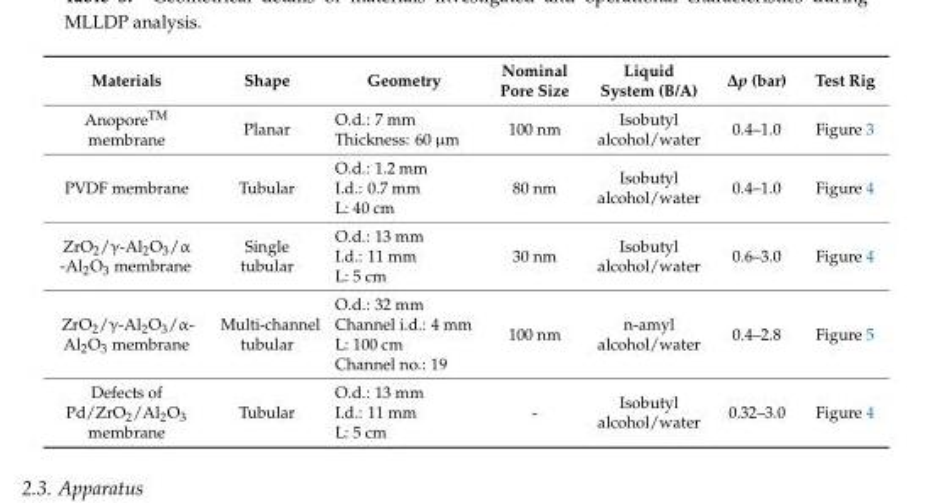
<table><thead><tr><td>Materials</td><td>Shape</td><td>Geometry</td><td>Nominal Pore Size</td><td>Liquid System (B/A)</td><td>∆p (bar)</td><td>Test Rig</td></tr></thead><tbody><tr><td>Anopore<sup>TM</sup> membrane</td><td>Planar</td><td>O.d.: 7 mm Thickness: 60 µm</td><td>100 nm</td><td>Isobutyl alcohol/water</td><td>0.4–1.0</td><td>Figure 3</td></tr><tr><td>PVDF membrane</td><td>Tubular</td><td>O.d.: 1.2 mm I.d.: 0.7 mm L: 40 cm</td><td>80 nm</td><td>Isobutyl alcohol/water</td><td>0.4–1.0</td><td>Figure 4</td></tr><tr><td>ZrO<sub>2</sub>/γ-Al<sub>2</sub>O<sub>3</sub>/α -Al<sub>2</sub>O<sub>3</sub> membrane</td><td>Single tubular</td><td>O.d.: 13 mm I.d.: 11 mm L: 5 cm</td><td>30 nm</td><td>Isobutyl alcohol/water</td><td>0.6–3.0</td><td>Figure 4</td></tr><tr><td>ZrO<sub>2</sub>/γ-Al<sub>2</sub>O<sub>3</sub>/α- Al<sub>2</sub>O<sub>3</sub> membrane</td><td>Multi-channel tubular</td><td>O.d.: 32 mm Channel i.d.: 4 mm L: 100 cm Channel no.: 19</td><td>100 nm</td><td>n-amyl alcohol/water</td><td>0.4–2.8</td><td>Figure 5</td></tr><tr><td>Defects of Pd/ZrO<sub>2</sub>/Al<sub>2</sub>O<sub>3</sub> membrane</td><td>Tubular</td><td>O.d.: 13 mm I.d.: 11 mm L: 5 cm</td><td>-</td><td>Isobutyl alcohol/water</td><td>0.32–3.0</td><td>Figure 4</td></tr></tbody></table>